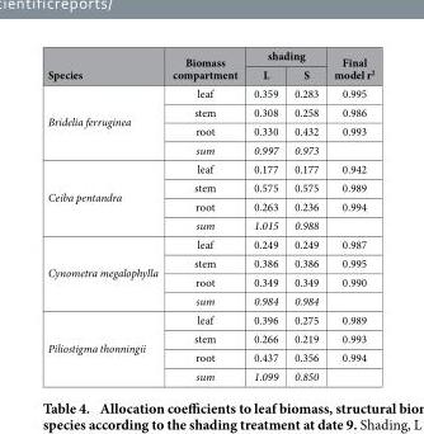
<table><thead><tr><td rowspan="2">Species</td><td rowspan="2">Biomass compartment</td><td colspan="2">shading</td><td rowspan="2">Final model r<sup>2</sup></td></tr><tr><td>L</td><td>S</td></tr></thead><tbody><tr><td rowspan="4">Bridelia ferruginea</td><td>leaf</td><td>0.359</td><td>0.283</td><td>0.995</td></tr><tr><td>stem</td><td>0.308</td><td>0.258</td><td>0.986</td></tr><tr><td>root</td><td>0.330</td><td>0.432</td><td>0.993</td></tr><tr><td>sum</td><td>0.997</td><td>0.973</td><td></td></tr><tr><td rowspan="4">Ceiba pentandra</td><td>leaf</td><td>0.177</td><td>0.177</td><td>0.942</td></tr><tr><td>stem</td><td>0.575</td><td>0.575</td><td>0.989</td></tr><tr><td>root</td><td>0.263</td><td>0.236</td><td>0.994</td></tr><tr><td>sum</td><td>1.015</td><td>0.988</td><td></td></tr><tr><td rowspan="4">Cynometra megalophylla</td><td>leaf</td><td>0.249</td><td>0.249</td><td>0.987</td></tr><tr><td>stem</td><td>0.386</td><td>0.386</td><td>0.995</td></tr><tr><td>root</td><td>0.349</td><td>0.349</td><td>0.990</td></tr><tr><td>sum</td><td>0.984</td><td>0.984</td><td></td></tr><tr><td rowspan="4">Piliostigma thonningii</td><td>leaf</td><td>0.396</td><td>0.275</td><td>0.989</td></tr><tr><td>stem</td><td>0.266</td><td>0.219</td><td>0.993</td></tr><tr><td>root</td><td>0.437</td><td>0.356</td><td>0.994</td></tr><tr><td>sum</td><td>1.099</td><td>0.850</td><td></td></tr></tbody></table>